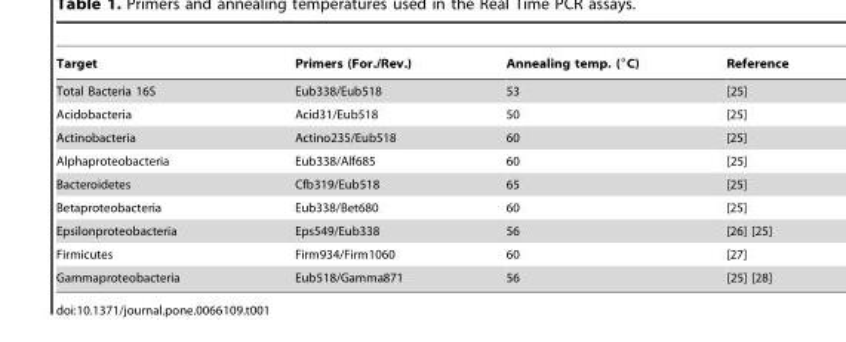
<table><thead><tr><td>Target</td><td>Primers (For./Rev.)</td><td>Annealing temp. (°C)</td><td>Reference</td></tr></thead><tbody><tr><td>Total Bacteria 16S</td><td>Eub338/Eub518</td><td>53</td><td>[25]</td></tr><tr><td>Acidobacteria</td><td>Acid31/Eub518</td><td>50</td><td>[25]</td></tr><tr><td>Actinobacteria</td><td>Actino235/Eub518</td><td>60</td><td>[25]</td></tr><tr><td>Alphaproteobacteria</td><td>Eub338/Alf685</td><td>60</td><td>[25]</td></tr><tr><td>Bacteroidetes</td><td>Cfb319/Eub518</td><td>65</td><td>[25]</td></tr><tr><td>Betaproteobacteria</td><td>Eub338/Bet680</td><td>60</td><td>[25]</td></tr><tr><td>Epsilonproteobacteria</td><td>Eps549/Eub338</td><td>56</td><td>[26] [25]</td></tr><tr><td>Firmicutes</td><td>Firm934/Firm1060</td><td>60</td><td>[27]</td></tr><tr><td>Gammaproteobacteria</td><td>Eub518/Gamma871</td><td>56</td><td>[25] [28]</td></tr></tbody></table>